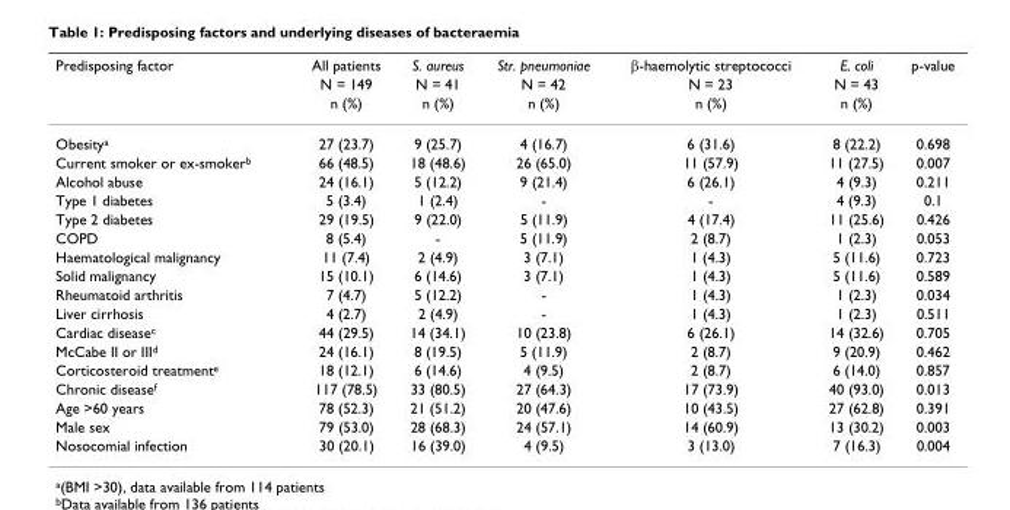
<table><thead><tr><td rowspan="3">Predisposing factor</td><td rowspan="3">All patients N = 149 n (%)</td><td rowspan="3">S. aureus N = 41 n (%)</td><td rowspan="3">Str. pneumoniae N = 42 n (%)</td><td rowspan="3">β-haemolytic streptococci N = 23 n (%)</td><td rowspan="3">E. coli N = 43 n (%)</td><td rowspan="3">p-value</td></tr><tr></tr><tr></tr></thead><tbody><tr><td>Obesity<sup>a</sup></td><td>27 (23.7)</td><td>9 (25.7)</td><td>4 (16.7)</td><td>6 (31.6)</td><td>8 (22.2)</td><td>0.698</td></tr><tr><td>Current smoker or ex-smoker<sup>b</sup></td><td>66 (48.5)</td><td>18 (48.6)</td><td>26 (65.0)</td><td>11 (57.9)</td><td>11 (27.5)</td><td>0.007</td></tr><tr><td>Alcohol abuse</td><td>24 (16.1)</td><td>5 (12.2)</td><td>9 (21.4)</td><td>6 (26.1)</td><td>4 (9.3)</td><td>0.211</td></tr><tr><td>Type 1 diabetes</td><td>5 (3.4)</td><td>1 (2.4)</td><td>-</td><td>-</td><td>4 (9.3)</td><td>0.1</td></tr><tr><td>Type 2 diabetes</td><td>29 (19.5)</td><td>9 (22.0)</td><td>5 (11.9)</td><td>4 (17.4)</td><td>11 (25.6)</td><td>0.426</td></tr><tr><td>COPD</td><td>8 (5.4)</td><td>-</td><td>5 (11.9)</td><td>2 (8.7)</td><td>1 (2.3)</td><td>0.053</td></tr><tr><td>Haematological malignancy</td><td>11 (7.4)</td><td>2 (4.9)</td><td>3 (7.1)</td><td>1 (4.3)</td><td>5 (11.6)</td><td>0.723</td></tr><tr><td>Solid malignancy</td><td>15 (10.1)</td><td>6 (14.6)</td><td>3 (7.1)</td><td>1 (4.3)</td><td>5 (11.6)</td><td>0.589</td></tr><tr><td>Rheumatoid arthritis</td><td>7 (4.7)</td><td>5 (12.2)</td><td>-</td><td>1 (4.3)</td><td>1 (2.3)</td><td>0.034</td></tr><tr><td>Liver cirrhosis</td><td>4 (2.7)</td><td>2 (4.9)</td><td>-</td><td>1 (4.3)</td><td>1 (2.3)</td><td>0.511</td></tr><tr><td>Cardiac disease<sup>c</sup></td><td>44 (29.5)</td><td>14 (34.1)</td><td>10 (23.8)</td><td>6 (26.1)</td><td>14 (32.6)</td><td>0.705</td></tr><tr><td>McCabe II or III<sup>d</sup></td><td>24 (16.1)</td><td>8 (19.5)</td><td>5 (11.9)</td><td>2 (8.7)</td><td>9 (20.9)</td><td>0.462</td></tr><tr><td>Corticosteroid treatment<sup>e</sup></td><td>18 (12.1)</td><td>6 (14.6)</td><td>4 (9.5)</td><td>2 (8.7)</td><td>6 (14.0)</td><td>0.857</td></tr><tr><td>Chronic disease<sup>f</sup></td><td>117 (78.5)</td><td>33 (80.5)</td><td>27 (64.3)</td><td>17 (73.9)</td><td>40 (93.0)</td><td>0.013</td></tr><tr><td>Age &gt;60 years</td><td>78 (52.3)</td><td>21 (51.2)</td><td>20 (47.6)</td><td>10 (43.5)</td><td>27 (62.8)</td><td>0.391</td></tr><tr><td>Male sex</td><td>79 (53.0)</td><td>28 (68.3)</td><td>24 (57.1)</td><td>14 (60.9)</td><td>13 (30.2)</td><td>0.003</td></tr><tr><td>Nosocomial infection</td><td>30 (20.1)</td><td>16 (39.0)</td><td>4 (9.5)</td><td>3 (13.0)</td><td>7 (16.3)</td><td>0.004</td></tr></tbody></table>